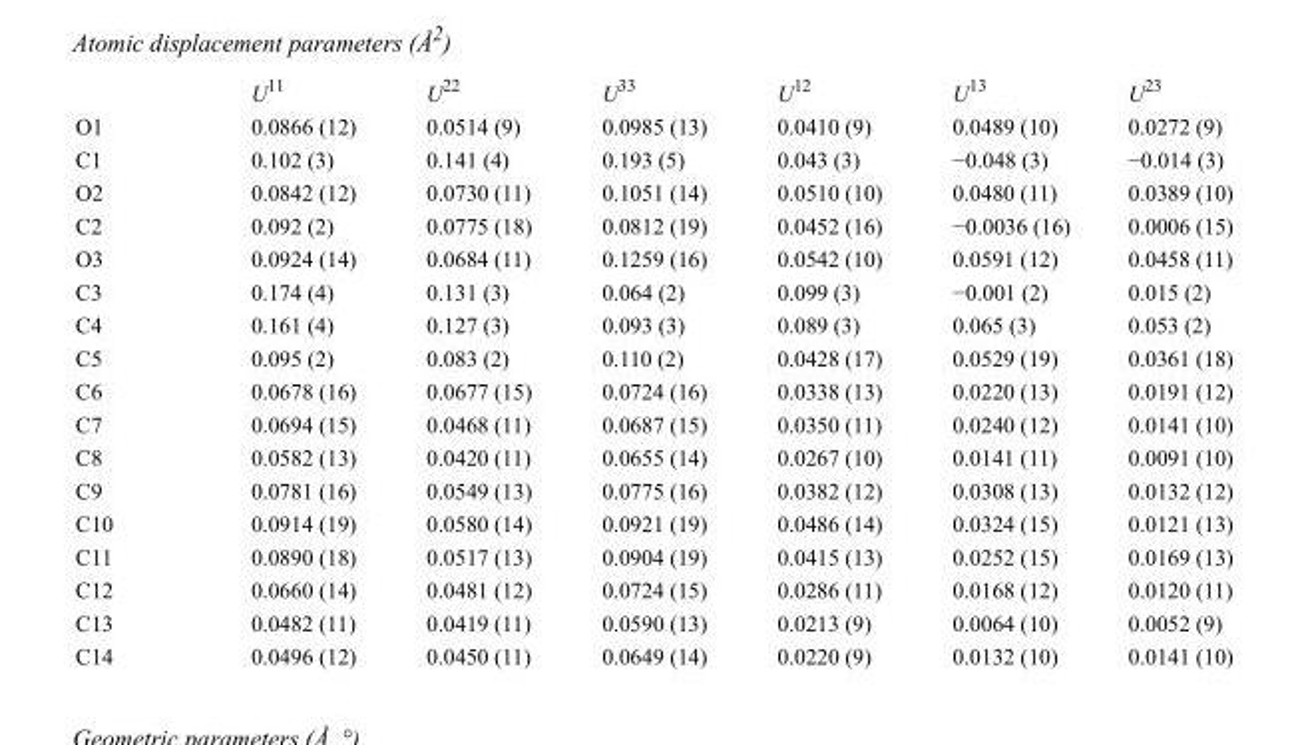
<table><thead><tr><td></td><td>U<sup>11</sup></td><td>U<sup>22</sup></td><td>U<sup>33</sup></td><td>U<sup>12</sup></td><td>U<sup>13</sup></td><td>U<sup>23</sup></td></tr></thead><tbody><tr><td>O1</td><td>0.0866 (12)</td><td>0.0514 (9)</td><td>0.0985 (13)</td><td>0.0410 (9)</td><td>0.0489 (10)</td><td>0.0272 (9)</td></tr><tr><td>C1</td><td>0.102 (3)</td><td>0.141 (4)</td><td>0.193 (5)</td><td>0.043 (3)</td><td>−0.048 (3)</td><td>−0.014 (3)</td></tr><tr><td>O2</td><td>0.0842 (12)</td><td>0.0730 (11)</td><td>0.1051 (14)</td><td>0.0510 (10)</td><td>0.0480 (11)</td><td>0.0389 (10)</td></tr><tr><td>C2</td><td>0.092 (2)</td><td>0.0775 (18)</td><td>0.0812 (19)</td><td>0.0452 (16)</td><td>−0.0036 (16)</td><td>0.0006 (15)</td></tr><tr><td>O3</td><td>0.0924 (14)</td><td>0.0684 (11)</td><td>0.1259 (16)</td><td>0.0542 (10)</td><td>0.0591 (12)</td><td>0.0458 (11)</td></tr><tr><td>C3</td><td>0.174 (4)</td><td>0.131 (3)</td><td>0.064 (2)</td><td>0.099 (3)</td><td>−0.001 (2)</td><td>0.015 (2)</td></tr><tr><td>C4</td><td>0.161 (4)</td><td>0.127 (3)</td><td>0.093 (3)</td><td>0.089 (3)</td><td>0.065 (3)</td><td>0.053 (2)</td></tr><tr><td>C5</td><td>0.095 (2)</td><td>0.083 (2)</td><td>0.110 (2)</td><td>0.0428 (17)</td><td>0.0529 (19)</td><td>0.0361 (18)</td></tr><tr><td>C6</td><td>0.0678 (16)</td><td>0.0677 (15)</td><td>0.0724 (16)</td><td>0.0338 (13)</td><td>0.0220 (13)</td><td>0.0191 (12)</td></tr><tr><td>C7</td><td>0.0694 (15)</td><td>0.0468 (11)</td><td>0.0687 (15)</td><td>0.0350 (11)</td><td>0.0240 (12)</td><td>0.0141 (10)</td></tr><tr><td>C8</td><td>0.0582 (13)</td><td>0.0420 (11)</td><td>0.0655 (14)</td><td>0.0267 (10)</td><td>0.0141 (11)</td><td>0.0091 (10)</td></tr><tr><td>C9</td><td>0.0781 (16)</td><td>0.0549 (13)</td><td>0.0775 (16)</td><td>0.0382 (12)</td><td>0.0308 (13)</td><td>0.0132 (12)</td></tr><tr><td>C10</td><td>0.0914 (19)</td><td>0.0580 (14)</td><td>0.0921 (19)</td><td>0.0486 (14)</td><td>0.0324 (15)</td><td>0.0121 (13)</td></tr><tr><td>C11</td><td>0.0890 (18)</td><td>0.0517 (13)</td><td>0.0904 (19)</td><td>0.0415 (13)</td><td>0.0252 (15)</td><td>0.0169 (13)</td></tr><tr><td>C12</td><td>0.0660 (14)</td><td>0.0481 (12)</td><td>0.0724 (15)</td><td>0.0286 (11)</td><td>0.0168 (12)</td><td>0.0120 (11)</td></tr><tr><td>C13</td><td>0.0482 (11)</td><td>0.0419 (11)</td><td>0.0590 (13)</td><td>0.0213 (9)</td><td>0.0064 (10)</td><td>0.0052 (9)</td></tr><tr><td>C14</td><td>0.0496 (12)</td><td>0.0450 (11)</td><td>0.0649 (14)</td><td>0.0220 (9)</td><td>0.0132 (10)</td><td>0.0141 (10)</td></tr></tbody></table>